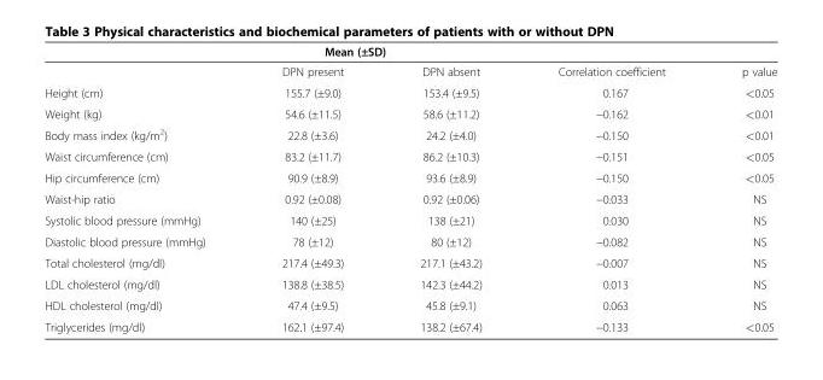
<table><thead><tr><td colspan="4">Mean (±SD)</td><td rowspan="2">p value</td></tr><tr><td></td><td>DPN present</td><td>DPN absent</td><td>Correlation coefficient</td></tr></thead><tbody><tr><td>Height (cm)</td><td>155.7 (±9.0)</td><td>153.4 (±9.5)</td><td>0.167</td><td>&lt;0.05</td></tr><tr><td>Weight (kg)</td><td>54.6 (±11.5)</td><td>58.6 (±11.2)</td><td>−0.162</td><td>&lt;0.01</td></tr><tr><td>Body mass index (kg/m<sup>2</sup>)</td><td>22.8 (±3.6)</td><td>24.2 (±4.0)</td><td>−0.150</td><td>&lt;0.01</td></tr><tr><td>Waist circumference (cm)</td><td>83.2 (±11.7)</td><td>86.2 (±10.3)</td><td>−0.151</td><td>&lt;0.05</td></tr><tr><td>Hip circumference (cm)</td><td>90.9 (±8.9)</td><td>93.6 (±8.9)</td><td>−0.150</td><td>&lt;0.05</td></tr><tr><td>Waist-hip ratio</td><td>0.92 (±0.08)</td><td>0.92 (±0.06)</td><td>−0.033</td><td>NS</td></tr><tr><td>Systolic blood pressure (mmHg)</td><td>140 (±25)</td><td>138 (±21)</td><td>0.030</td><td>NS</td></tr><tr><td>Diastolic blood pressure (mmHg)</td><td>78 (±12)</td><td>80 (±12)</td><td>−0.082</td><td>NS</td></tr><tr><td>Total cholesterol (mg/dl)</td><td>217.4 (±49.3)</td><td>217.1 (±43.2)</td><td>−0.007</td><td>NS</td></tr><tr><td>LDL cholesterol (mg/dl)</td><td>138.8 (±38.5)</td><td>142.3 (±44.2)</td><td>0.013</td><td>NS</td></tr><tr><td>HDL cholesterol (mg/dl)</td><td>47.4 (±9.5)</td><td>45.8 (±9.1)</td><td>0.063</td><td>NS</td></tr><tr><td>Triglycerides (mg/dl)</td><td>162.1 (±97.4)</td><td>138.2 (±67.4)</td><td>−0.133</td><td>&lt;0.05</td></tr></tbody></table>